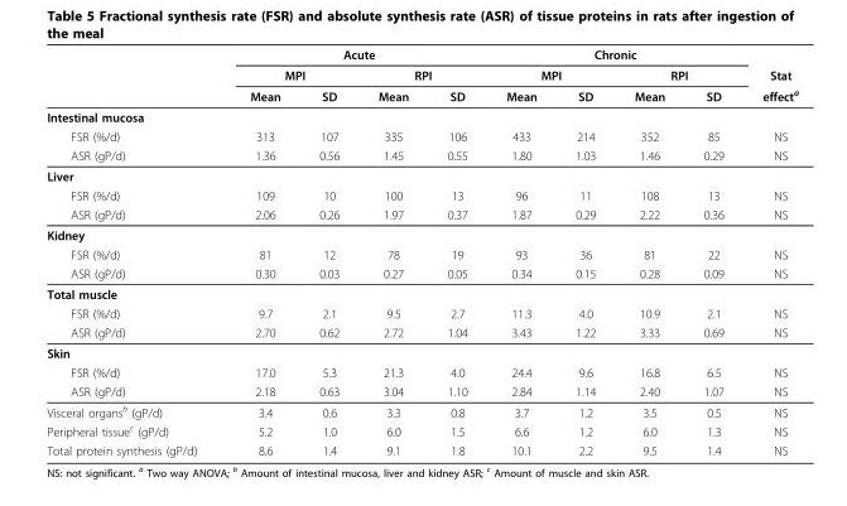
<table><thead><tr><td rowspan="3"></td><td colspan="4">Acute</td><td colspan="4">Chronic</td><td rowspan="3">Stat effect<sup>a</sup></td></tr><tr><td colspan="2">MPI</td><td colspan="2">RPI</td><td colspan="2">MPI</td><td colspan="2">RPI</td></tr><tr><td>Mean</td><td>SD</td><td>Mean</td><td>SD</td><td>Mean</td><td>SD</td><td>Mean</td><td>SD</td></tr></thead><tbody><tr><td colspan="10">Intestinal mucosa</td></tr><tr><td>FSR (%/d)</td><td>313</td><td>107</td><td>335</td><td>106</td><td>433</td><td>214</td><td>352</td><td>85</td><td>NS</td></tr><tr><td>ASR (gP/d)</td><td>1.36</td><td>0.56</td><td>1.45</td><td>0.55</td><td>1.80</td><td>1.03</td><td>1.46</td><td>0.29</td><td>NS</td></tr><tr><td colspan="10">Liver</td></tr><tr><td>FSR (%/d)</td><td>109</td><td>10</td><td>100</td><td>13</td><td>96</td><td>11</td><td>108</td><td>13</td><td>NS</td></tr><tr><td>ASR (gP/d)</td><td>2.06</td><td>0.26</td><td>1.97</td><td>0.37</td><td>1.87</td><td>0.29</td><td>2.22</td><td>0.36</td><td>NS</td></tr><tr><td colspan="10">Kidney</td></tr><tr><td>FSR (%/d)</td><td>81</td><td>12</td><td>78</td><td>19</td><td>93</td><td>36</td><td>81</td><td>22</td><td>NS</td></tr><tr><td>ASR (gP/d)</td><td>0.30</td><td>0.03</td><td>0.27</td><td>0.05</td><td>0.34</td><td>0.15</td><td>0.28</td><td>0.09</td><td>NS</td></tr><tr><td colspan="10">Total muscle</td></tr><tr><td>FSR (%/d)</td><td>9.7</td><td>2.1</td><td>9.5</td><td>2.7</td><td>11.3</td><td>4.0</td><td>10.9</td><td>2.1</td><td>NS</td></tr><tr><td>ASR (gP/d)</td><td>2.70</td><td>0.62</td><td>2.72</td><td>1.04</td><td>3.43</td><td>1.22</td><td>3.33</td><td>0.69</td><td>NS</td></tr><tr><td colspan="10">Skin</td></tr><tr><td>FSR (%/d)</td><td>17.0</td><td>5.3</td><td>21.3</td><td>4.0</td><td>24.4</td><td>9.6</td><td>16.8</td><td>6.5</td><td>NS</td></tr><tr><td>ASR (gP/d)</td><td>2.18</td><td>0.63</td><td>3.04</td><td>1.10</td><td>2.84</td><td>1.14</td><td>2.40</td><td>1.07</td><td>NS</td></tr><tr><td>Visceral organs<sup>b</sup> (gP/d)</td><td>3.4</td><td>0.6</td><td>3.3</td><td>0.8</td><td>3.7</td><td>1.2</td><td>3.5</td><td>0.5</td><td>NS</td></tr><tr><td>Peripheral tissue<sup>c</sup> (gP/d)</td><td>5.2</td><td>1.0</td><td>6.0</td><td>1.5</td><td>6.6</td><td>1.2</td><td>6.0</td><td>1.3</td><td>NS</td></tr><tr><td>Total protein synthesis (gP/d)</td><td>8.6</td><td>1.4</td><td>9.1</td><td>1.8</td><td>10.1</td><td>2.2</td><td>9.5</td><td>1.4</td><td>NS</td></tr></tbody></table>